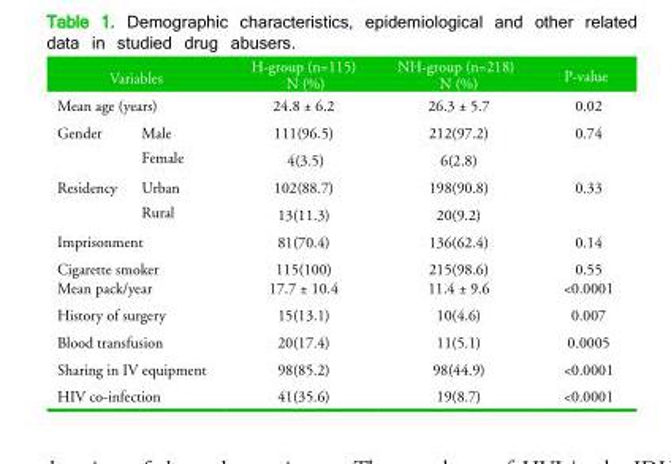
<table><thead><tr><td rowspan="2" colspan="2">Variables Mean age (years)</td><td rowspan="3">H-group (n=115) N (%) 24.8 ± 6.2 111(96.5)</td><td rowspan="3">NH-group (n=218) N (%) 26.3 ± 5.7 212(97.2)</td><td rowspan="3">P-value 0.02 0.74</td></tr><tr></tr><tr><td>Gender</td><td>Male</td></tr></thead><tbody><tr><td></td><td>Female</td><td>4(3.5)</td><td>6(2.8)</td><td></td></tr><tr><td rowspan="2">Residency</td><td>Urban</td><td>102(88.7)</td><td>198(90.8)</td><td>0.33</td></tr><tr><td>Rural</td><td>13(11.3)</td><td>20(9.2)</td><td></td></tr><tr><td colspan="2">Imprisonment</td><td>81(70.4)</td><td>136(62.4)</td><td>0.14</td></tr><tr><td colspan="2">Cigarette smoker Mean pack/year</td><td>115(100) 17.7 ± 10.4</td><td>215(98.6) 11.4 ± 9.6</td><td>0.55 &lt;0.0001</td></tr><tr><td colspan="2">History of surgery</td><td>15(13.1)</td><td>10(4.6)</td><td>0.007</td></tr><tr><td colspan="2">Blood transfusion</td><td>20(17.4)</td><td>11(5.1)</td><td>0.0005</td></tr><tr><td colspan="2">Sharing in IV equipment</td><td>98(85.2)</td><td>98(44.9)</td><td>&lt;0.0001</td></tr><tr><td colspan="2">HIV co-infection</td><td>41(35.6)</td><td>19(8.7)</td><td>&lt;0.0001</td></tr></tbody></table>